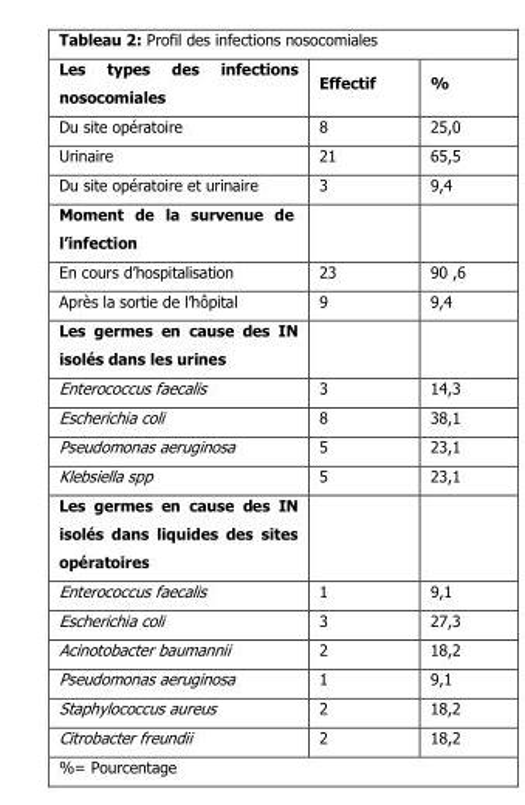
<table><thead><tr><td>Les types des infections nosocomiales</td><td>Effectif</td><td>%</td></tr></thead><tbody><tr><td>Du site opératoire</td><td>8</td><td>25,0</td></tr><tr><td>Urinaire</td><td>21</td><td>65,5</td></tr><tr><td>Du site opératoire et urinaire</td><td>3</td><td>9,4</td></tr><tr><td colspan="3">Moment de la survenue de l’infection</td></tr><tr><td>En cours d’hospitalisation</td><td>23</td><td>90 ,6</td></tr><tr><td>Après la sortie de l’hôpital</td><td>9</td><td>9,4</td></tr><tr><td colspan="3">Les germes en cause des IN isolés dans les urines</td></tr><tr><td>Enterococcus faecalis</td><td>3</td><td>14,3</td></tr><tr><td>Escherichia coli</td><td>8</td><td>38,1</td></tr><tr><td>Pseudomonas aeruginosa</td><td>5</td><td>23,1</td></tr><tr><td>Klebsiella spp</td><td>5</td><td>23,1</td></tr><tr><td colspan="3">Les germes en cause des IN isolés dans liquides des sites opératoires</td></tr><tr><td>Enterococcus faecalis</td><td>1</td><td>9,1</td></tr><tr><td>Escherichia coli</td><td>3</td><td>27,3</td></tr><tr><td>Acinotobacter baumannii</td><td>2</td><td>18,2</td></tr><tr><td>Pseudomonas aeruginosa</td><td>1</td><td>9,1</td></tr><tr><td>Staphylococcus aureus</td><td>2</td><td>18,2</td></tr><tr><td>Citrobacter freundii</td><td>2</td><td>18,2</td></tr></tbody></table>